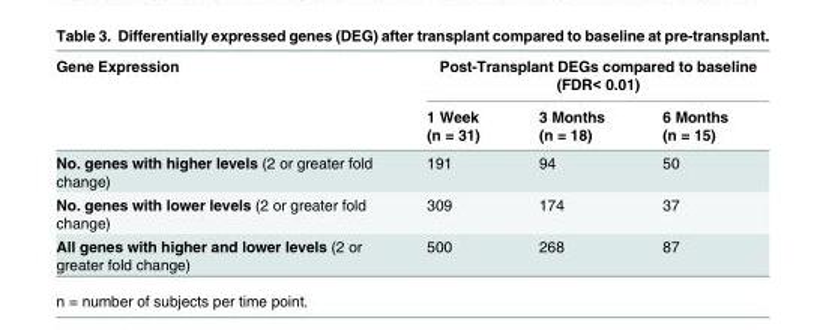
<table><thead><tr><td rowspan="2">Gene Expression</td><td colspan="3">Post-Transplant DEGs compared to baseline (FDR&lt; 0.01)</td></tr><tr><td>1 Week (n = 31)</td><td>3 Months (n = 18)</td><td>6 Months (n = 15)</td></tr></thead><tbody><tr><td>No. genes with higher levels (2 or greater fold change)</td><td>191</td><td>94</td><td>50</td></tr><tr><td>No. genes with lower levels (2 or greater fold change)</td><td>309</td><td>174</td><td>37</td></tr><tr><td>All genes with higher and lower levels (2 or greater fold change)</td><td>500</td><td>268</td><td>87</td></tr></tbody></table>